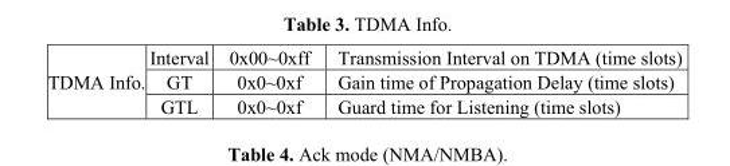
<table><tbody><tr><td rowspan="3">TDMA Info.</td><td>Interval</td><td>0x00~0xff</td><td>Transmission Interval on TDMA (time slots)</td></tr><tr><td>GT</td><td>0x0~0xf</td><td>Gain time of Propagation Delay (time slots)</td></tr><tr><td>GTL</td><td>0x0~0xf</td><td>Guard time for Listening (time slots)</td></tr></tbody></table>